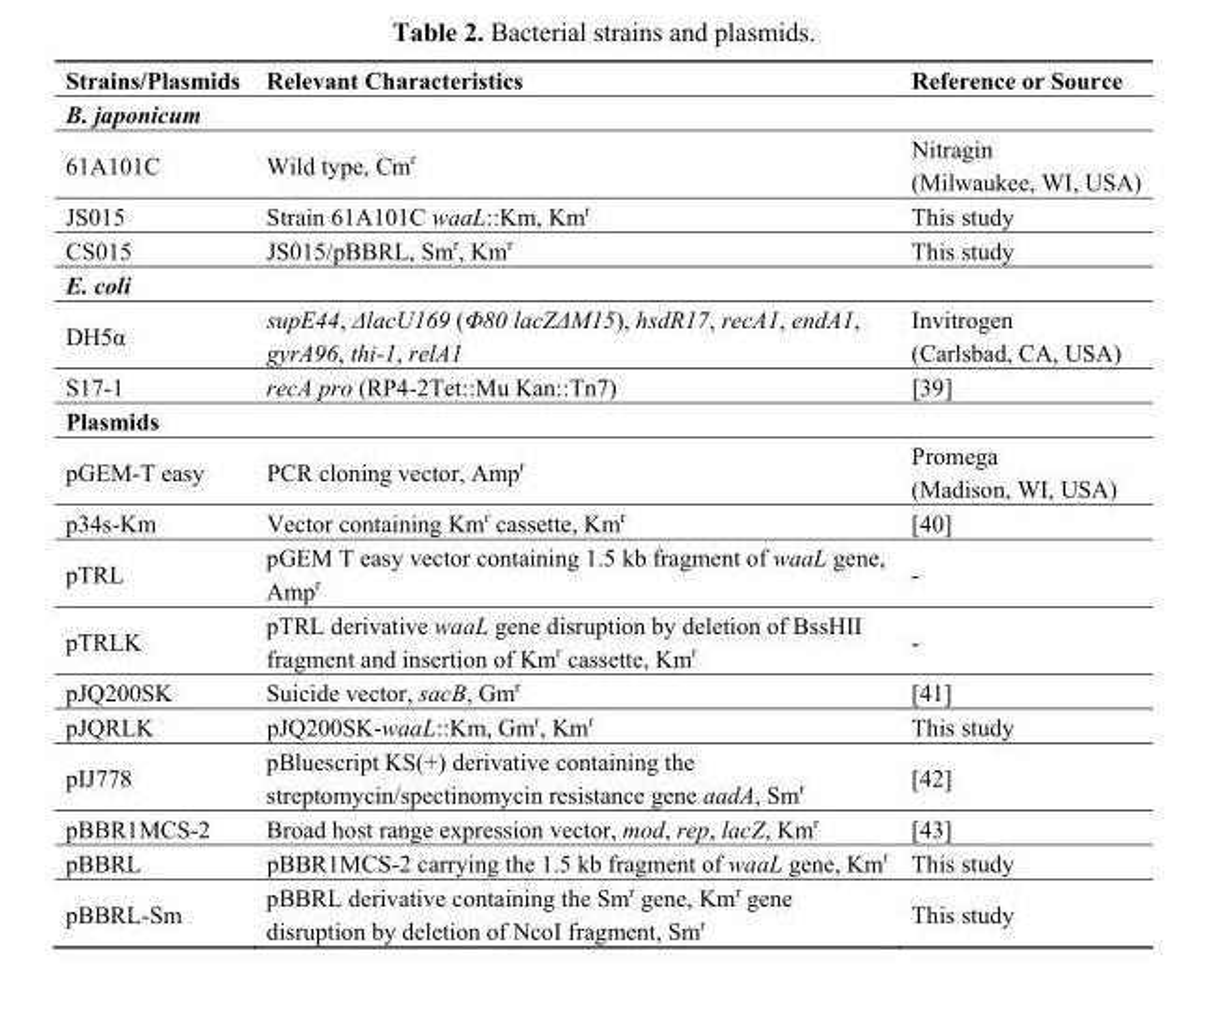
<table><thead><tr><td>Strains/Plasmids</td><td>Relevant Characteristics</td><td>Reference or Source</td></tr></thead><tbody><tr><td colspan="3">B. japonicum</td></tr><tr><td>61A101C</td><td>Wild type, Cm<sup>r</sup></td><td>Nitragin (Milwaukee, WI, USA)</td></tr><tr><td>JS015</td><td>Strain 61A101C waaL::Km, Km<sup>r</sup></td><td>This study</td></tr><tr><td>CS015</td><td>JS015/pBBRL, Sm<sup>r</sup>, Km<sup>r</sup></td><td>This study</td></tr><tr><td colspan="3">E. coli</td></tr><tr><td>DH5α</td><td>supE44, ΔlacU169 (Φ80 lacZΔM15), hsdR17, recA1, endA1, gyrA96, thi-1, relA1</td><td>Invitrogen (Carlsbad, CA, USA)</td></tr><tr><td>S17-1</td><td>recA pro (RP4-2Tet::Mu Kan::Tn7)</td><td>[39]</td></tr><tr><td colspan="3">Plasmids</td></tr><tr><td>pGEM-T easy</td><td>PCR cloning vector, Amp<sup>r</sup></td><td>Promega (Madison, WI, USA)</td></tr><tr><td>p34s-Km</td><td>Vector containing Km<sup>r</sup> cassette, Km<sup>r</sup></td><td>[40]</td></tr><tr><td>pTRL</td><td>pGEM T easy vector containing 1.5 kb fragment of waaL gene, Amp<sup>r</sup></td><td>-</td></tr><tr><td>pTRLK</td><td>pTRL derivative waaL gene disruption by deletion of BssHII fragment and insertion of Km<sup>r</sup> cassette, Km<sup>r</sup></td><td>-</td></tr><tr><td>pJQ200SK</td><td>Suicide vector, sacB, Gm<sup>r</sup></td><td>[41]</td></tr><tr><td>pJQRLK</td><td>pJQ200SK-waaL::Km, Gm<sup>r</sup>, Km<sup>r</sup></td><td>This study</td></tr><tr><td>pIJ778</td><td>pBluescript KS(+) derivative containing the streptomycin/spectinomycin resistance gene aadA, Sm<sup>r</sup></td><td>[42]</td></tr><tr><td>pBBR1MCS-2</td><td>Broad host range expression vector, mod, rep, lacZ, Km<sup>r</sup></td><td>[43]</td></tr><tr><td>pBBRL</td><td>pBBR1MCS-2 carrying the 1.5 kb fragment of waaL gene, Km<sup>r</sup></td><td>This study</td></tr><tr><td>pBBRL-Sm</td><td>pBBRL derivative containing the Sm<sup>r</sup> gene, Km<sup>r</sup> gene disruption by deletion of NcoI fragment, Sm<sup>r</sup></td><td>This study</td></tr></tbody></table>